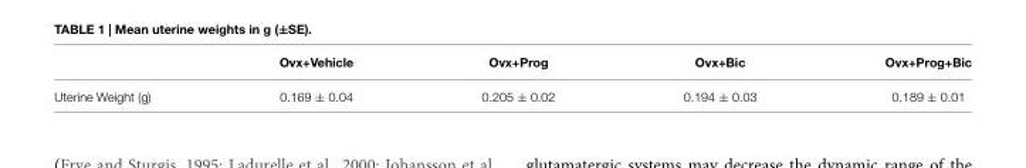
<table><thead><tr><td></td><td>Ovx+Vehicle</td><td>Ovx+Prog</td><td>Ovx+Bic</td><td>Ovx+Prog+Bic</td></tr></thead><tbody><tr><td>Uterine Weight (g)</td><td>0.169 ± 0.04</td><td>0.205 ± 0.02</td><td>0.194 ± 0.03</td><td>0.189 ± 0.01</td></tr></tbody></table>